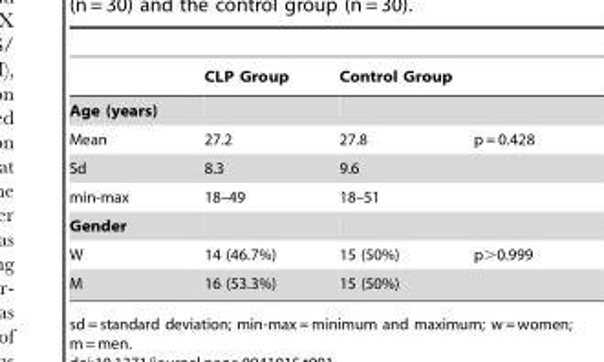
<table><thead><tr><td></td><td>CLP Group</td><td>Control Group</td><td></td></tr></thead><tbody><tr><td colspan="4">Age (years)</td></tr><tr><td>Mean</td><td>27.2</td><td>27.8</td><td>p = 0.428</td></tr><tr><td>Sd</td><td>8.3</td><td>9.6</td><td></td></tr><tr><td>min-max</td><td>18–49</td><td>18–51</td><td></td></tr><tr><td colspan="4">Gender</td></tr><tr><td>W</td><td>14 (46.7%)</td><td>15 (50%)</td><td>p&gt;0.999</td></tr><tr><td>M</td><td>16 (53.3%)</td><td>15 (50%)</td><td></td></tr></tbody></table>